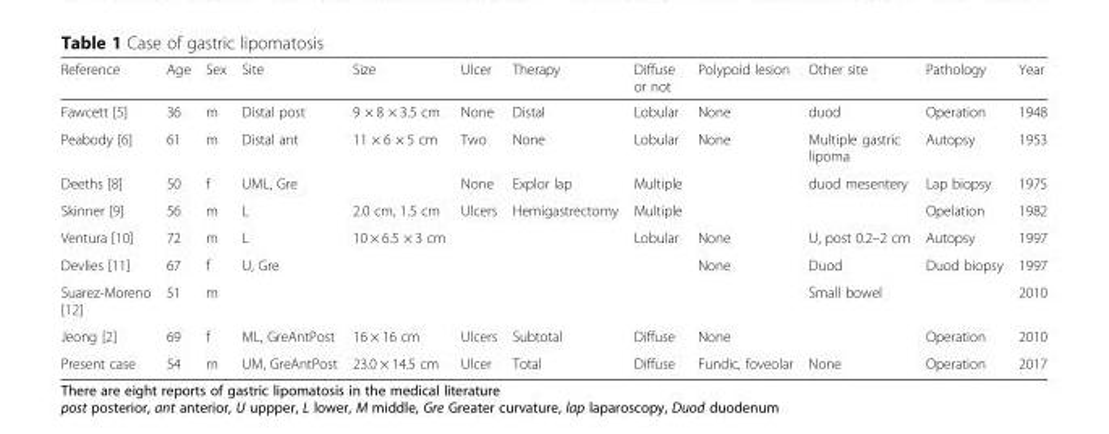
<table><thead><tr><td>Reference</td><td>Age</td><td>Sex</td><td>Site</td><td>Size</td><td>Ulcer</td><td>Therapy</td><td>Diffuse or not</td><td>Polypoid lesion</td><td>Other site</td><td>Pathology</td><td>Year</td></tr></thead><tbody><tr><td>Fawcett [5]</td><td>36</td><td>m</td><td>Distal post</td><td>9 × 8 × 3.5 cm</td><td>None</td><td>Distal</td><td>Lobular</td><td>None</td><td>duod</td><td>Operation</td><td>1948</td></tr><tr><td>Peabody [6]</td><td>61</td><td>m</td><td>Distal ant</td><td>11 × 6 × 5 cm</td><td>Two</td><td>None</td><td>Lobular</td><td>None</td><td>Multiple gastric lipoma</td><td>Autopsy</td><td>1953</td></tr><tr><td>Deeths [8]</td><td>50</td><td>f</td><td>UML, Gre</td><td></td><td>None</td><td>Explor lap</td><td>Multiple</td><td></td><td>duod mesentery</td><td>Lap biopsy</td><td>1975</td></tr><tr><td>Skinner [9]</td><td>56</td><td>m</td><td>L</td><td>2.0 cm, 1.5 cm</td><td>Ulcers</td><td>Hemigastrectomy</td><td>Multiple</td><td></td><td></td><td>Opelation</td><td>1982</td></tr><tr><td>Ventura [10]</td><td>72</td><td>m</td><td>L</td><td>10 × 6.5 × 3 cm</td><td></td><td></td><td>Lobular</td><td>None</td><td>U, post 0.2–2 cm</td><td>Autopsy</td><td>1997</td></tr><tr><td>Devlies [11]</td><td>67</td><td>f</td><td>U, Gre</td><td></td><td></td><td></td><td></td><td>None</td><td>Duod</td><td>Duod biopsy</td><td>1997</td></tr><tr><td>Suarez-Moreno [12]</td><td>51</td><td>m</td><td></td><td></td><td></td><td></td><td></td><td></td><td>Small bowel</td><td></td><td>2010</td></tr><tr><td>Jeong [2]</td><td>69</td><td>f</td><td>ML, GreAntPost</td><td>16 × 16 cm</td><td>Ulcers</td><td>Subtotal</td><td>Diffuse</td><td>None</td><td></td><td>Operation</td><td>2010</td></tr><tr><td>Present case</td><td>54</td><td>m</td><td>UM, GreAntPost</td><td>23.0 × 14.5 cm</td><td>Ulcer</td><td>Total</td><td>Diffuse</td><td>Fundic, foveolar</td><td>None</td><td>Operation</td><td>2017</td></tr></tbody></table>